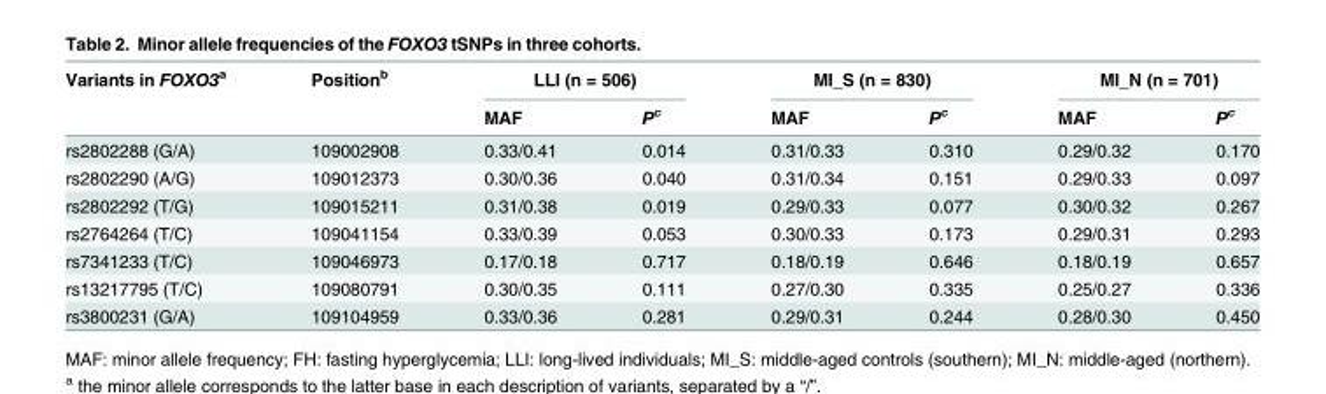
<table><thead><tr><td rowspan="2">Variants in FOXO3<sup>a</sup></td><td rowspan="2">Position<sup>b</sup></td><td colspan="2">LLI (n = 506)</td><td colspan="2">MI_S (n = 830)</td><td colspan="2">MI_N (n = 701)</td></tr><tr><td>MAF</td><td>P<sup>c</sup></td><td>MAF</td><td>P<sup>c</sup></td><td>MAF</td><td>P<sup>c</sup></td></tr></thead><tbody><tr><td>rs2802288 (G/A)</td><td>109002908</td><td>0.33/0.41</td><td>0.014</td><td>0.31/0.33</td><td>0.310</td><td>0.29/0.32</td><td>0.170</td></tr><tr><td>rs2802290 (A/G)</td><td>109012373</td><td>0.30/0.36</td><td>0.040</td><td>0.31/0.34</td><td>0.151</td><td>0.29/0.33</td><td>0.097</td></tr><tr><td>rs2802292 (T/G)</td><td>109015211</td><td>0.31/0.38</td><td>0.019</td><td>0.29/0.33</td><td>0.077</td><td>0.30/0.32</td><td>0.267</td></tr><tr><td>rs2764264 (T/C)</td><td>109041154</td><td>0.33/0.39</td><td>0.053</td><td>0.30/0.33</td><td>0.173</td><td>0.29/0.31</td><td>0.293</td></tr><tr><td>rs7341233 (T/C)</td><td>109046973</td><td>0.17/0.18</td><td>0.717</td><td>0.18/0.19</td><td>0.646</td><td>0.18/0.19</td><td>0.657</td></tr><tr><td>rs13217795 (T/C)</td><td>109080791</td><td>0.30/0.35</td><td>0.111</td><td>0.27/0.30</td><td>0.335</td><td>0.25/0.27</td><td>0.336</td></tr><tr><td>rs3800231 (G/A)</td><td>109104959</td><td>0.33/0.36</td><td>0.281</td><td>0.29/0.31</td><td>0.244</td><td>0.28/0.30</td><td>0.450</td></tr></tbody></table>